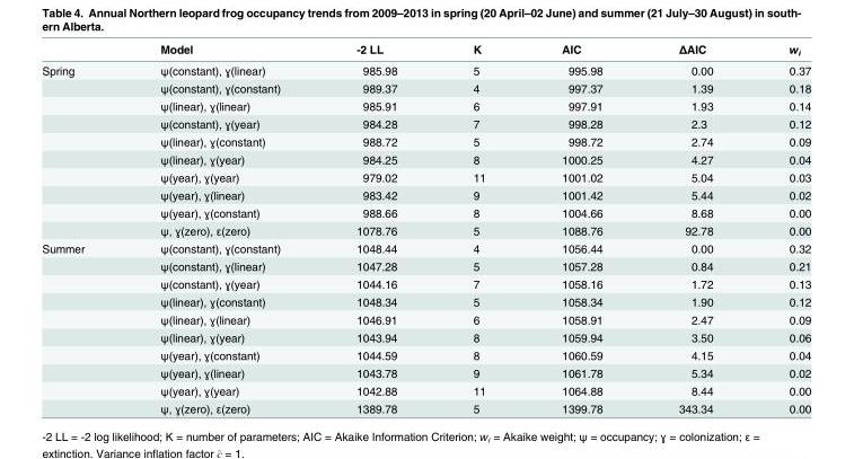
<table><thead><tr><td></td><td>Model</td><td>-2 LL</td><td>K</td><td>AIC</td><td>ΔAIC</td><td>w<sub>i</sub></td></tr></thead><tbody><tr><td rowspan="10">Spring</td><td>ψ(constant), ɣ(linear)</td><td>985.98</td><td>5</td><td>995.98</td><td>0.00</td><td>0.37</td></tr><tr><td>ψ(constant), ɣ(constant)</td><td>989.37</td><td>4</td><td>997.37</td><td>1.39</td><td>0.18</td></tr><tr><td>ψ(linear), ɣ(linear)</td><td>985.91</td><td>6</td><td>997.91</td><td>1.93</td><td>0.14</td></tr><tr><td>ψ(constant), ɣ(year)</td><td>984.28</td><td>7</td><td>998.28</td><td>2.3</td><td>0.12</td></tr><tr><td>ψ(linear), ɣ(constant)</td><td>988.72</td><td>5</td><td>998.72</td><td>2.74</td><td>0.09</td></tr><tr><td>ψ(linear), ɣ(year)</td><td>984.25</td><td>8</td><td>1000.25</td><td>4.27</td><td>0.04</td></tr><tr><td>ψ(year), ɣ(year)</td><td>979.02</td><td>11</td><td>1001.02</td><td>5.04</td><td>0.03</td></tr><tr><td>ψ(year), ɣ(linear)</td><td>983.42</td><td>9</td><td>1001.42</td><td>5.44</td><td>0.02</td></tr><tr><td>ψ(year), ɣ(constant)</td><td>988.66</td><td>8</td><td>1004.66</td><td>8.68</td><td>0.00</td></tr><tr><td>ψ, ɣ(zero), ε(zero)</td><td>1078.76</td><td>5</td><td>1088.76</td><td>92.78</td><td>0.00</td></tr><tr><td rowspan="10">Summer</td><td>ψ(constant), ɣ(constant)</td><td>1048.44</td><td>4</td><td>1056.44</td><td>0.00</td><td>0.32</td></tr><tr><td>ψ(constant), ɣ(linear)</td><td>1047.28</td><td>5</td><td>1057.28</td><td>0.84</td><td>0.21</td></tr><tr><td>ψ(constant), ɣ(year)</td><td>1044.16</td><td>7</td><td>1058.16</td><td>1.72</td><td>0.13</td></tr><tr><td>ψ(linear), ɣ(constant)</td><td>1048.34</td><td>5</td><td>1058.34</td><td>1.90</td><td>0.12</td></tr><tr><td>ψ(linear), ɣ(linear)</td><td>1046.91</td><td>6</td><td>1058.91</td><td>2.47</td><td>0.09</td></tr><tr><td>ψ(linear), ɣ(year)</td><td>1043.94</td><td>8</td><td>1059.94</td><td>3.50</td><td>0.06</td></tr><tr><td>ψ(year), ɣ(constant)</td><td>1044.59</td><td>8</td><td>1060.59</td><td>4.15</td><td>0.04</td></tr><tr><td>ψ(year), ɣ(linear)</td><td>1043.78</td><td>9</td><td>1061.78</td><td>5.34</td><td>0.02</td></tr><tr><td>ψ(year), ɣ(year)</td><td>1042.88</td><td>11</td><td>1064.88</td><td>8.44</td><td>0.00</td></tr><tr><td>ψ, ɣ(zero), ε(zero)</td><td>1389.78</td><td>5</td><td>1399.78</td><td>343.34</td><td>0.00</td></tr></tbody></table>